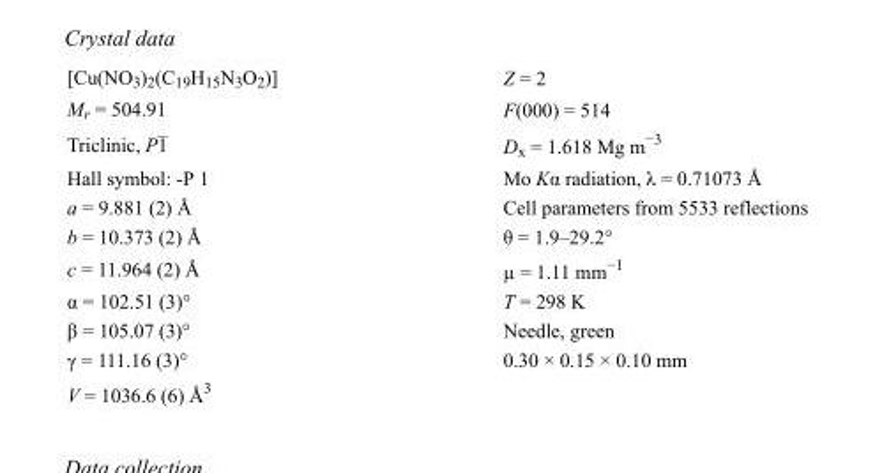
<table><tbody><tr><td>[Cu(NO<sub>3</sub>)<sub>2</sub>(C<sub>19</sub>H<sub>15</sub>N<sub>3</sub>O<sub>2</sub>)]</td><td>Z = 2</td></tr><tr><td>M<sub>r</sub> = 504.91</td><td>F(000) = 514</td></tr><tr><td>Triclinic, P1</td><td>D<sub>x</sub> = 1.618 Mg m<sup>−3</sup></td></tr><tr><td>Hall symbol: -P 1</td><td>Mo Kα radiation, λ = 0.71073 Å</td></tr><tr><td>a = 9.881 (2) Å</td><td>Cell parameters from 5533 reflections</td></tr><tr><td>b = 10.373 (2) Å</td><td>θ = 1.9–29.2°</td></tr><tr><td>c = 11.964 (2) Å</td><td>µ = 1.11 mm<sup>−1</sup></td></tr><tr><td>α = 102.51 (3)°</td><td>T = 298 K</td></tr><tr><td>β = 105.07 (3)°</td><td>Needle, green</td></tr><tr><td>γ = 111.16 (3)°</td><td>0.30 × 0.15 × 0.10 mm</td></tr><tr><td>V = 1036.6 (6) Å<sup>3</sup></td><td></td></tr></tbody></table>